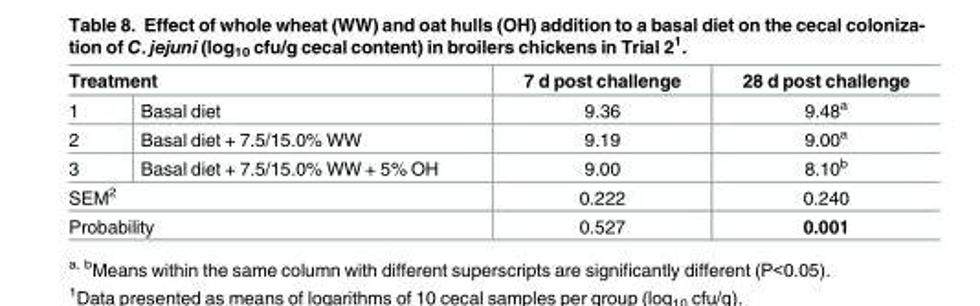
<table><thead><tr><td colspan="2">Treatment</td><td rowspan="2">7 d post challenge 9.36</td><td rowspan="2">28 d post challenge 9.48<sup>a</sup></td></tr><tr><td>1</td><td>Basal diet</td></tr></thead><tbody><tr><td>2</td><td>Basal diet + 7.5/15.0% WW</td><td>9.19</td><td>9.00<sup>a</sup></td></tr><tr><td>3</td><td>Basal diet + 7.5/15.0% WW + 5% OH</td><td>9.00</td><td>8.10<sup>b</sup></td></tr><tr><td colspan="2">SEM<sup>2</sup></td><td>0.222</td><td>0.240</td></tr><tr><td colspan="2">Probability</td><td>0.527</td><td>0.001</td></tr></tbody></table>